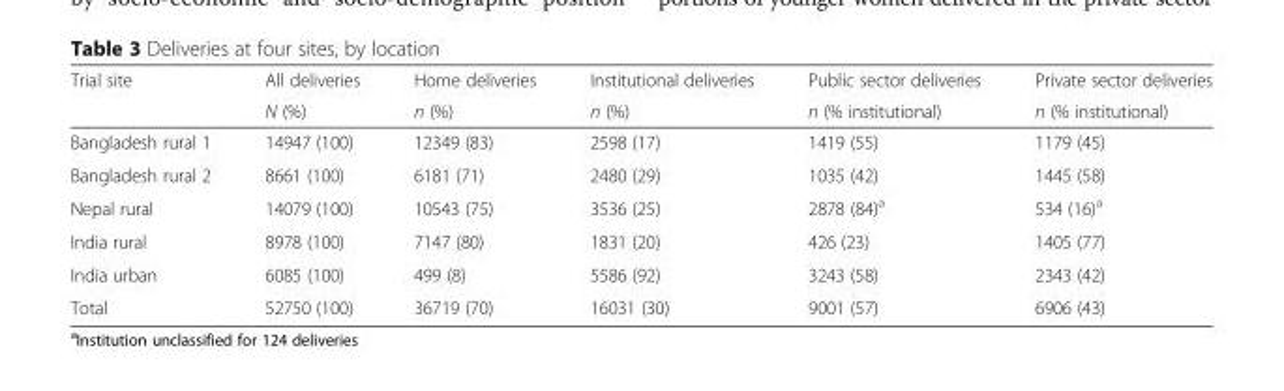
<table><thead><tr><td rowspan="2">Trial site</td><td rowspan="2">All deliveries N (%)</td><td rowspan="2">Home deliveries n (%)</td><td rowspan="2">Institutional deliveries n (%)</td><td rowspan="2">Public sector deliveries n (% institutional)</td><td rowspan="2">Private sector deliveries n (% institutional)</td></tr><tr></tr></thead><tbody><tr><td>Bangladesh rural 1</td><td>14947 (100)</td><td>12349 (83)</td><td>2598 (17)</td><td>1419 (55)</td><td>1179 (45)</td></tr><tr><td>Bangladesh rural 2</td><td>8661 (100)</td><td>6181 (71)</td><td>2480 (29)</td><td>1035 (42)</td><td>1445 (58)</td></tr><tr><td>Nepal rural</td><td>14079 (100)</td><td>10543 (75)</td><td>3536 (25)</td><td>2878 (84)<sup>a</sup></td><td>534 (16)<sup>a</sup></td></tr><tr><td>India rural</td><td>8978 (100)</td><td>7147 (80)</td><td>1831 (20)</td><td>426 (23)</td><td>1405 (77)</td></tr><tr><td>India urban</td><td>6085 (100)</td><td>499 (8)</td><td>5586 (92)</td><td>3243 (58)</td><td>2343 (42)</td></tr><tr><td>Total</td><td>52750 (100)</td><td>36719 (70)</td><td>16031 (30)</td><td>9001 (57)</td><td>6906 (43)</td></tr></tbody></table>